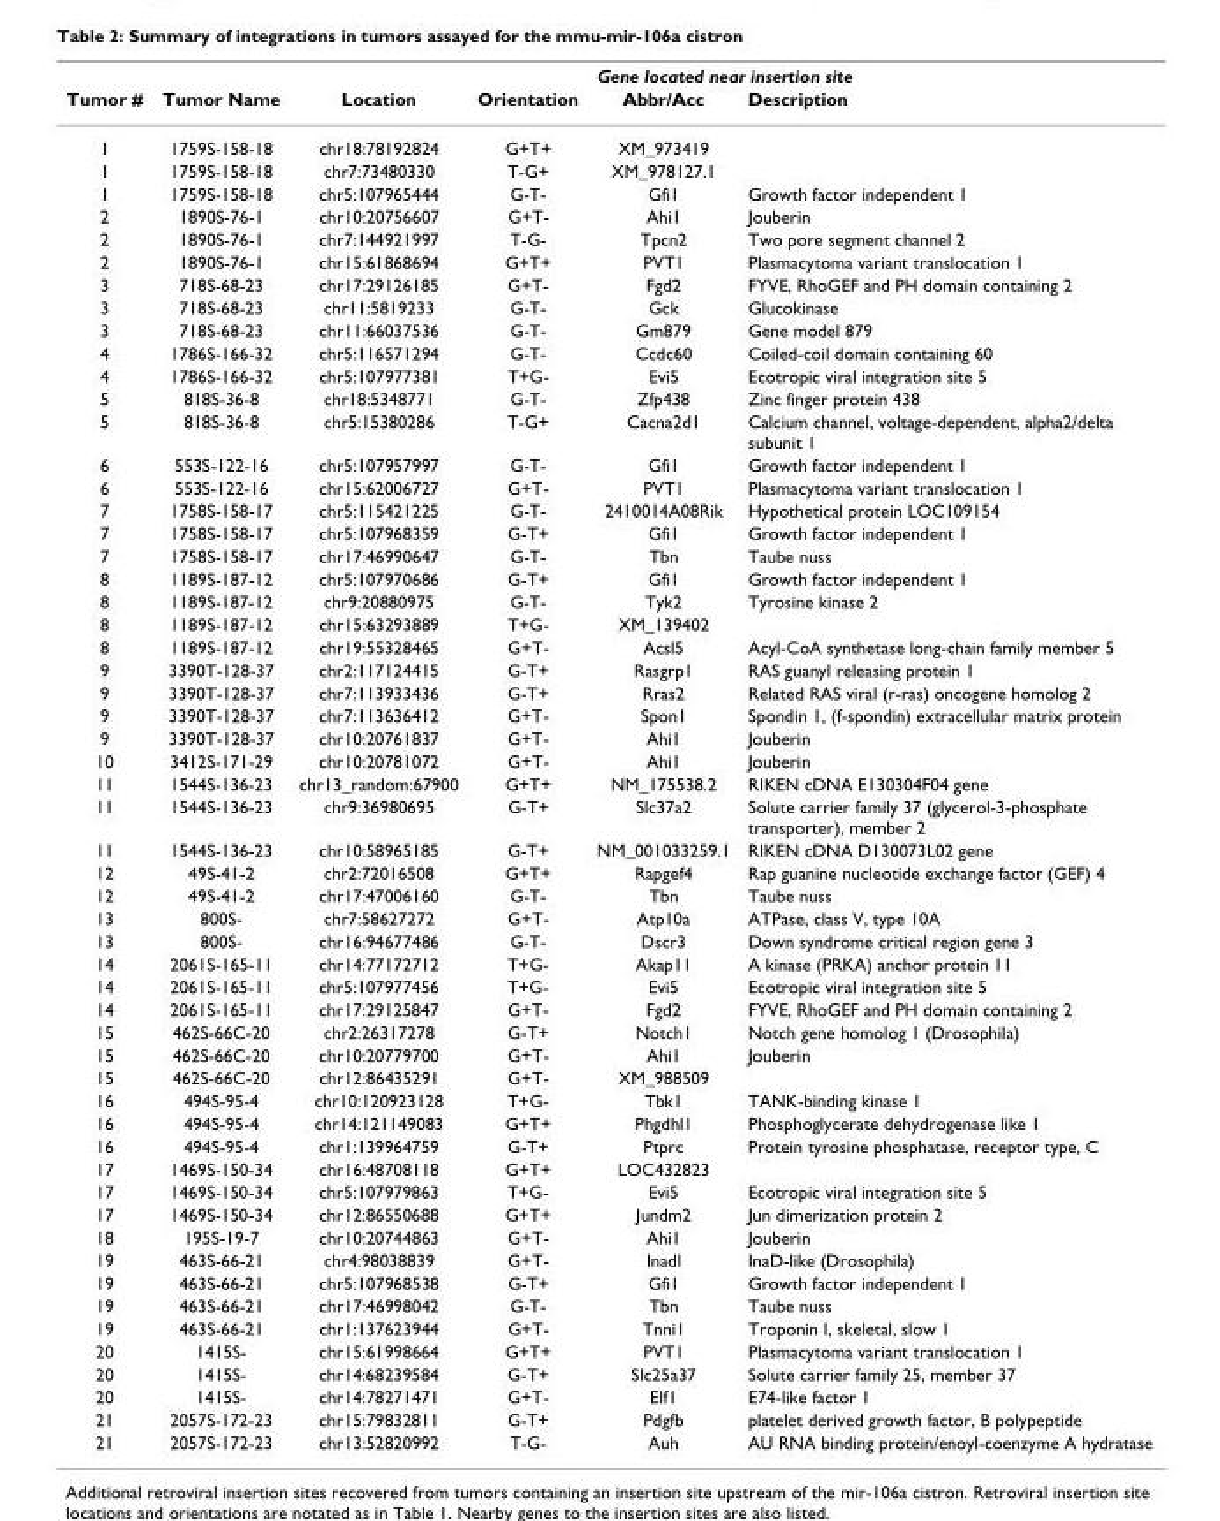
<table><thead><tr><td rowspan="2">Tumor #</td><td rowspan="2">Tumor Name</td><td rowspan="2">Location</td><td rowspan="2">Orientation</td><td colspan="2">Gene located near insertion site</td></tr><tr><td>Abbr/Acc</td><td>Description</td></tr></thead><tbody><tr><td>1</td><td>1759S-158-18</td><td>chr18:78192824</td><td>G+T+</td><td>XM_973419</td><td></td></tr><tr><td>1</td><td>1759S-158-18</td><td>chr7:73480330</td><td>T-G+</td><td>XM_978127.1</td><td></td></tr><tr><td>1</td><td>1759S-158-18</td><td>chr5:107965444</td><td>G-T-</td><td>Gfi1</td><td>Growth factor independent 1</td></tr><tr><td>2</td><td>1890S-76-1</td><td>chr10:20756607</td><td>G+T-</td><td>Ahi1</td><td>Jouberin</td></tr><tr><td>2</td><td>1890S-76-1</td><td>chr7:144921997</td><td>T-G-</td><td>Tpcn2</td><td>Two pore segment channel 2</td></tr><tr><td>2</td><td>1890S-76-1</td><td>chr15:61868694</td><td>G+T+</td><td>PVT1</td><td>Plasmacytoma variant translocation 1</td></tr><tr><td>3</td><td>718S-68-23</td><td>chr17:29126185</td><td>G+T-</td><td>Fgd2</td><td>FYVE, RhoGEF and PH domain containing 2</td></tr><tr><td>3</td><td>718S-68-23</td><td>chr11:5819233</td><td>G-T-</td><td>Gck</td><td>Glucokinase</td></tr><tr><td>3</td><td>718S-68-23</td><td>chr11:66037536</td><td>G-T-</td><td>Gm879</td><td>Gene model 879</td></tr><tr><td>4</td><td>1786S-166-32</td><td>chr5:116571294</td><td>G-T-</td><td>Ccdc60</td><td>Coiled-coil domain containing 60</td></tr><tr><td>4</td><td>1786S-166-32</td><td>chr5:107977381</td><td>T+G-</td><td>Evi5</td><td>Ecotropic viral integration site 5</td></tr><tr><td>5</td><td>818S-36-8</td><td>chr18:5348771</td><td>G-T-</td><td>Zfp438</td><td>Zinc finger protein 438</td></tr><tr><td>5</td><td>818S-36-8</td><td>chr5:15380286</td><td>T-G+</td><td>Cacna2d1</td><td>Calcium channel, voltage-dependent, alpha2/delta subunit 1</td></tr><tr><td>6</td><td>553S-122-16</td><td>chr5:107957997</td><td>G-T-</td><td>Gfi1</td><td>Growth factor independent 1</td></tr><tr><td>6</td><td>553S-122-16</td><td>chr15:62006727</td><td>G+T-</td><td>PVT1</td><td>Plasmacytoma variant translocation 1</td></tr><tr><td>7</td><td>1758S-158-17</td><td>chr5:115421225</td><td>G-T-</td><td>2410014A08Rik</td><td>Hypothetical protein LOC109154</td></tr><tr><td>7</td><td>1758S-158-17</td><td>chr5:107968359</td><td>G-T+</td><td>Gfi1</td><td>Growth factor independent 1</td></tr><tr><td>7</td><td>1758S-158-17</td><td>chr17:46990647</td><td>G-T-</td><td>Tbn</td><td>Taube nuss</td></tr><tr><td>8</td><td>1189S-187-12</td><td>chr5:107970686</td><td>G-T+</td><td>Gfi1</td><td>Growth factor independent 1</td></tr><tr><td>8</td><td>1189S-187-12</td><td>chr9:20880975</td><td>G-T-</td><td>Tyk2</td><td>Tyrosine kinase 2</td></tr><tr><td>8</td><td>1189S-187-12</td><td>chr15:63293889</td><td>T+G-</td><td>XM_139402</td><td></td></tr><tr><td>8</td><td>1189S-187-12</td><td>chr19:55328465</td><td>G+T-</td><td>Acsl5</td><td>Acyl-CoA synthetase long-chain family member 5</td></tr><tr><td>9</td><td>3390T-128-37</td><td>chr2:117124415</td><td>G-T+</td><td>Rasgrp1</td><td>RAS guanyl releasing protein 1</td></tr><tr><td>9</td><td>3390T-128-37</td><td>chr7:113933436</td><td>G-T+</td><td>Rras2</td><td>Related RAS viral (r-ras) oncogene homolog 2</td></tr><tr><td>9</td><td>3390T-128-37</td><td>chr7:113636412</td><td>G+T-</td><td>Spon1</td><td>Spondin 1, (f-spondin) extracellular matrix protein</td></tr><tr><td>9</td><td>3390T-128-37</td><td>chr10:20761837</td><td>G+T-</td><td>Ahi1</td><td>Jouberin</td></tr><tr><td>10</td><td>3412S-171-29</td><td>chr10:20781072</td><td>G+T-</td><td>Ahi1</td><td>Jouberin</td></tr><tr><td>11</td><td>1544S-136-23</td><td>chr13_random:67900</td><td>G+T+</td><td>NM_175538.2</td><td>RIKEN cDNA E130304F04 gene</td></tr><tr><td>11</td><td>1544S-136-23</td><td>chr9:36980695</td><td>G-T+</td><td>Slc37a2</td><td>Solute carrier family 37 (glycerol-3-phosphate transporter), member 2</td></tr><tr><td>11</td><td>1544S-136-23</td><td>chr10:58965185</td><td>G-T+</td><td>NM_001033259.1</td><td>RIKEN cDNA D130073L02 gene</td></tr><tr><td>12</td><td>49S-41-2</td><td>chr2:72016508</td><td>G+T+</td><td>Rapgef4</td><td>Rap guanine nucleotide exchange factor (GEF) 4</td></tr><tr><td>12</td><td>49S-41-2</td><td>chr17:47006160</td><td>G-T-</td><td>Tbn</td><td>Taube nuss</td></tr><tr><td>13</td><td>800S-</td><td>chr7:58627272</td><td>G+T-</td><td>Atp10a</td><td>ATPase, class V, type 10A</td></tr><tr><td>13</td><td>800S-</td><td>chr16:94677486</td><td>G-T-</td><td>Dscr3</td><td>Down syndrome critical region gene 3</td></tr><tr><td>14</td><td>2061S-165-11</td><td>chr14:77172712</td><td>T+G-</td><td>Akap11</td><td>A kinase (PRKA) anchor protein 11</td></tr><tr><td>14</td><td>2061S-165-11</td><td>chr5:107977456</td><td>T+G-</td><td>Evi5</td><td>Ecotropic viral integration site 5</td></tr><tr><td>14</td><td>2061S-165-11</td><td>chr17:29125847</td><td>G+T-</td><td>Fgd2</td><td>FYVE, RhoGEF and PH domain containing 2</td></tr><tr><td>15</td><td>462S-66C-20</td><td>chr2:26317278</td><td>G-T+</td><td>Notch1</td><td>Notch gene homolog 1 (Drosophila)</td></tr><tr><td>15</td><td>462S-66C-20</td><td>chr10:20779700</td><td>G+T-</td><td>Ahi1</td><td>Jouberin</td></tr><tr><td>15</td><td>462S-66C-20</td><td>chr12:86435291</td><td>G+T-</td><td>XM_988509</td><td></td></tr><tr><td>16</td><td>494S-95-4</td><td>chr10:120923128</td><td>T+G-</td><td>Tbk1</td><td>TANK-binding kinase 1</td></tr><tr><td>16</td><td>494S-95-4</td><td>chr14:121149083</td><td>G+T+</td><td>Phgdhl1</td><td>Phosphoglycerate dehydrogenase like 1</td></tr><tr><td>16</td><td>494S-95-4</td><td>chr1:139964759</td><td>G-T+</td><td>Ptprc</td><td>Protein tyrosine phosphatase, receptor type, C</td></tr><tr><td>17</td><td>1469S-150-34</td><td>chr16:48708118</td><td>G+T+</td><td>LOC432823</td><td></td></tr><tr><td>17</td><td>1469S-150-34</td><td>chr5:107979863</td><td>T+G-</td><td>Evi5</td><td>Ecotropic viral integration site 5</td></tr><tr><td>17</td><td>1469S-150-34</td><td>chr12:86550688</td><td>G+T+</td><td>Jundm2</td><td>Jun dimerization protein 2</td></tr><tr><td>18</td><td>195S-19-7</td><td>chr10:20744863</td><td>G+T-</td><td>Ahi1</td><td>Jouberin</td></tr><tr><td>19</td><td>463S-66-21</td><td>chr4:98038839</td><td>G+T-</td><td>Inadl</td><td>InaD-like (Drosophila)</td></tr><tr><td>19</td><td>463S-66-21</td><td>chr5:107968538</td><td>G-T+</td><td>Gfi1</td><td>Growth factor independent 1</td></tr><tr><td>19</td><td>463S-66-21</td><td>chr17:46998042</td><td>G-T-</td><td>Tbn</td><td>Taube nuss</td></tr><tr><td>19</td><td>463S-66-21</td><td>chr1:137623944</td><td>G+T-</td><td>Tnni1</td><td>Troponin I, skeletal, slow 1</td></tr><tr><td>20</td><td>1415S-</td><td>chr15:61998664</td><td>G+T+</td><td>PVT1</td><td>Plasmacytoma variant translocation 1</td></tr><tr><td>20</td><td>1415S-</td><td>chr14:68239584</td><td>G-T+</td><td>Slc25a37</td><td>Solute carrier family 25, member 37</td></tr><tr><td>20</td><td>1415S-</td><td>chr14:78271471</td><td>G+T-</td><td>Elf1</td><td>E74-like factor 1</td></tr><tr><td>21</td><td>2057S-172-23</td><td>chr15:79832811</td><td>G-T+</td><td>Pdgfb</td><td>platelet derived growth factor, B polypeptide</td></tr><tr><td>21</td><td>2057S-172-23</td><td>chr13:52820992</td><td>T-G-</td><td>Auh</td><td>AU RNA binding protein/enoyl-coenzyme A hydratase</td></tr></tbody></table>